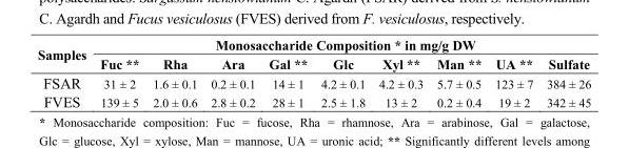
<table><thead><tr><td rowspan="2">Samples</td><td colspan="9">Monosaccharide Composition * in mg/g DW</td></tr><tr><td>Fuc **</td><td>Rha</td><td>Ara</td><td>Gal **</td><td>Glc</td><td>Xyl **</td><td>Man **</td><td>UA **</td><td>Sulfate</td></tr></thead><tbody><tr><td>FSAR</td><td>31 ± 2</td><td>1.6 ± 0.1</td><td>0.2 ± 0.1</td><td>14 ± 1</td><td>4.2 ± 0.1</td><td>4.2 ± 0.3</td><td>5.7 ± 0.5</td><td>123 ± 7</td><td>384 ± 26</td></tr><tr><td>FVES</td><td>139 ± 5</td><td>2.0 ± 0.6</td><td>2.8 ± 0.2</td><td>28 ± 1</td><td>2.5 ± 1.8</td><td>13 ± 2</td><td>0.2 ± 0.4</td><td>19 ± 2</td><td>342 ± 45</td></tr></tbody></table>